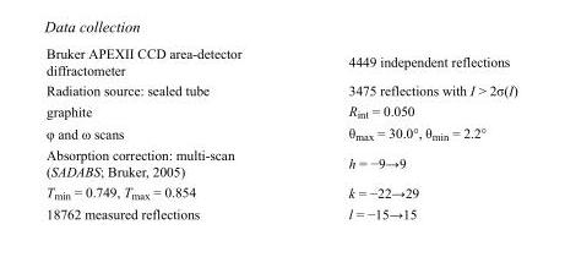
<table><tbody><tr><td>Bruker APEXII CCD area-detector diffractometer</td><td>4449 independent reflections</td></tr><tr><td>Radiation source: sealed tube</td><td>3475 reflections with I &gt; 2σ(I)</td></tr><tr><td>graphite</td><td>R<sub>int</sub> = 0.050</td></tr><tr><td>φ and ω scans</td><td>θ<sub>max</sub> = 30.0°, θ<sub>min</sub> = 2.2°</td></tr><tr><td>Absorption correction: multi-scan (SADABS; Bruker, 2005)</td><td>h = −9→9</td></tr><tr><td>T<sub>min</sub> = 0.749, T<sub>max</sub> = 0.854</td><td>k = −22→29</td></tr><tr><td>18762 measured reflections</td><td>l = −15→15</td></tr></tbody></table>